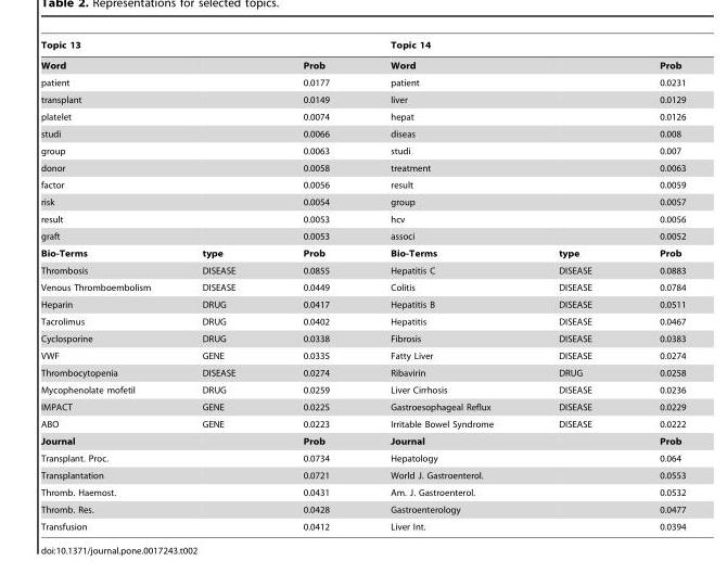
<table><thead><tr><td colspan="3">Topic 13</td><td colspan="3">Topic 14</td></tr><tr><td>Word</td><td></td><td>Prob</td><td>Word</td><td></td><td>Prob</td></tr></thead><tbody><tr><td>patient</td><td></td><td>0.0177</td><td>patient</td><td></td><td>0.0231</td></tr><tr><td>transplant</td><td></td><td>0.0149</td><td>liver</td><td></td><td>0.0129</td></tr><tr><td>platelet</td><td></td><td>0.0074</td><td>hepat</td><td></td><td>0.0126</td></tr><tr><td>studi</td><td></td><td>0.0066</td><td>diseas</td><td></td><td>0.008</td></tr><tr><td>group</td><td></td><td>0.0063</td><td>studi</td><td></td><td>0.007</td></tr><tr><td>donor</td><td></td><td>0.0058</td><td>treatment</td><td></td><td>0.0063</td></tr><tr><td>factor</td><td></td><td>0.0056</td><td>result</td><td></td><td>0.0059</td></tr><tr><td>risk</td><td></td><td>0.0054</td><td>group</td><td></td><td>0.0057</td></tr><tr><td>result</td><td></td><td>0.0053</td><td>hcv</td><td></td><td>0.0056</td></tr><tr><td>graft</td><td></td><td>0.0053</td><td>associ</td><td></td><td>0.0052</td></tr><tr><td>Bio-Terms</td><td>type</td><td>Prob</td><td>Bio-Terms</td><td>type</td><td>Prob</td></tr><tr><td>Thrombosis</td><td>DISEASE</td><td>0.0855</td><td>Hepatitis C</td><td>DISEASE</td><td>0.0883</td></tr><tr><td>Venous Thromboembolism</td><td>DISEASE</td><td>0.0449</td><td>Colitis</td><td>DISEASE</td><td>0.0784</td></tr><tr><td>Heparin</td><td>DRUG</td><td>0.0417</td><td>Hepatitis B</td><td>DISEASE</td><td>0.0511</td></tr><tr><td>Tacrolimus</td><td>DRUG</td><td>0.0402</td><td>Hepatitis</td><td>DISEASE</td><td>0.0467</td></tr><tr><td>Cyclosporine</td><td>DRUG</td><td>0.0338</td><td>Fibrosis</td><td>DISEASE</td><td>0.0383</td></tr><tr><td>VWF</td><td>GENE</td><td>0.0335</td><td>Fatty Liver</td><td>DISEASE</td><td>0.0274</td></tr><tr><td>Thrombocytopenia</td><td>DISEASE</td><td>0.0274</td><td>Ribavirin</td><td>DRUG</td><td>0.0258</td></tr><tr><td>Mycophenolate mofetil</td><td>DRUG</td><td>0.0259</td><td>Liver Cirrhosis</td><td>DISEASE</td><td>0.0236</td></tr><tr><td>IMPACT</td><td>GENE</td><td>0.0225</td><td>Gastroesophageal Reflux</td><td>DISEASE</td><td>0.0229</td></tr><tr><td>ABO</td><td>GENE</td><td>0.0223</td><td>Irritable Bowel Syndrome</td><td>DISEASE</td><td>0.0222</td></tr><tr><td>Journal</td><td></td><td>Prob</td><td>Journal</td><td></td><td>Prob</td></tr><tr><td>Transplant. Proc.</td><td></td><td>0.0734</td><td>Hepatology</td><td></td><td>0.064</td></tr><tr><td>Transplantation</td><td></td><td>0.0721</td><td>World J. Gastroenterol.</td><td></td><td>0.0553</td></tr><tr><td>Thromb. Haemost.</td><td></td><td>0.0431</td><td>Am. J. Gastroenterol.</td><td></td><td>0.0532</td></tr><tr><td>Thromb. Res.</td><td></td><td>0.0428</td><td>Gastroenterology</td><td></td><td>0.0477</td></tr><tr><td>Transfusion</td><td></td><td>0.0412</td><td>Liver Int.</td><td></td><td>0.0394</td></tr></tbody></table>